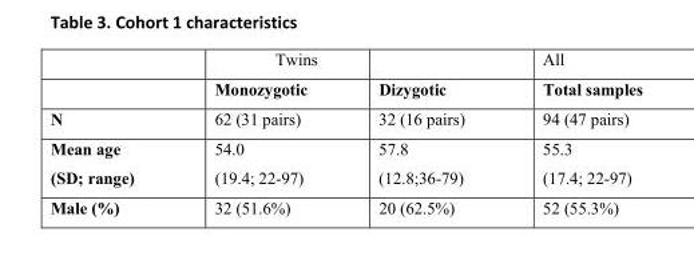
<table><thead><tr><td rowspan="2"></td><td rowspan="2">Twins Monozygotic</td><td rowspan="2">Dizygotic</td><td rowspan="2">All Total samples</td></tr><tr></tr></thead><tbody><tr><td>N</td><td>62 (31 pairs)</td><td>32 (16 pairs)</td><td>94 (47 pairs)</td></tr><tr><td>Mean age (SD; range)</td><td>54.0 (19.4; 22-97)</td><td>57.8 (12.8;36-79)</td><td>55.3 (17.4; 22-97)</td></tr><tr><td>Male (%)</td><td>32 (51.6%)</td><td>20 (62.5%)</td><td>52 (55.3%)</td></tr></tbody></table>